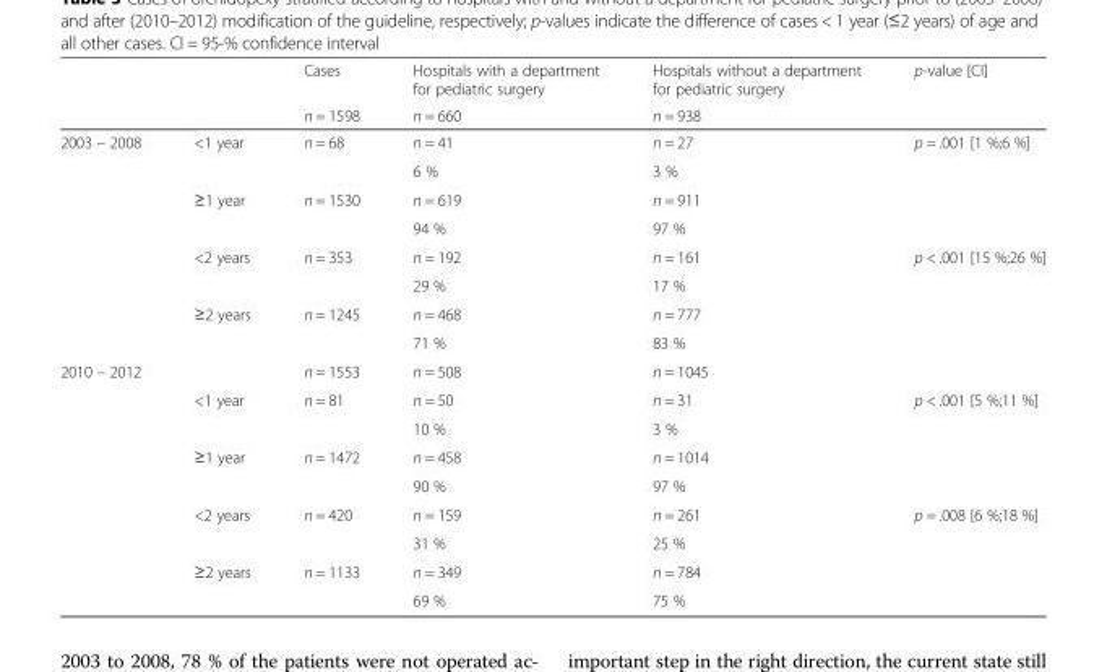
<table><thead><tr><td rowspan="2"></td><td rowspan="2"></td><td rowspan="2">Cases n = 1598</td><td rowspan="2">Hospitals with a department for pediatric surgery n = 660</td><td rowspan="2">Hospitals without a department for pediatric surgery n = 938</td><td rowspan="2">p-value [CI]</td></tr><tr></tr></thead><tbody><tr><td rowspan="8">2003 – 2008</td><td rowspan="2">&lt;1 year</td><td rowspan="2">n = 68</td><td>n = 41</td><td>n = 27</td><td rowspan="4">p = .001 [1 %;6 %]</td></tr><tr><td>6 %</td><td>3 %</td></tr><tr><td rowspan="2">≥1 year</td><td rowspan="2">n = 1530</td><td>n = 619</td><td>n = 911</td></tr><tr><td>94 %</td><td>97 %</td></tr><tr><td rowspan="2">&lt;2 years</td><td rowspan="2">n = 353</td><td>n = 192</td><td>n = 161</td><td rowspan="4">p &lt; .001 [15 %;26 %]</td></tr><tr><td>29 %</td><td>17 %</td></tr><tr><td rowspan="2">≥2 years</td><td rowspan="2">n = 1245</td><td>n = 468</td><td>n = 777</td></tr><tr><td>71 %</td><td>83 %</td></tr><tr><td rowspan="9">2010 – 2012</td><td></td><td>n = 1553</td><td>n = 508</td><td>n = 1045</td><td></td></tr><tr><td rowspan="2">&lt;1 year</td><td rowspan="2">n = 81</td><td>n = 50</td><td>n = 31</td><td rowspan="4">p &lt; .001 [5 %;11 %]</td></tr><tr><td>10 %</td><td>3 %</td></tr><tr><td rowspan="2">≥1 year</td><td rowspan="2">n = 1472</td><td>n = 458</td><td>n = 1014</td></tr><tr><td>90 %</td><td>97 %</td></tr><tr><td rowspan="2">&lt;2 years</td><td rowspan="2">n = 420</td><td>n = 159</td><td>n = 261</td><td rowspan="4">p = .008 [6 %;18 %]</td></tr><tr><td>31 %</td><td>25 %</td></tr><tr><td rowspan="2">≥2 years</td><td rowspan="2">n = 1133</td><td>n = 349</td><td>n = 784</td></tr><tr><td>69 %</td><td>75 %</td></tr></tbody></table>